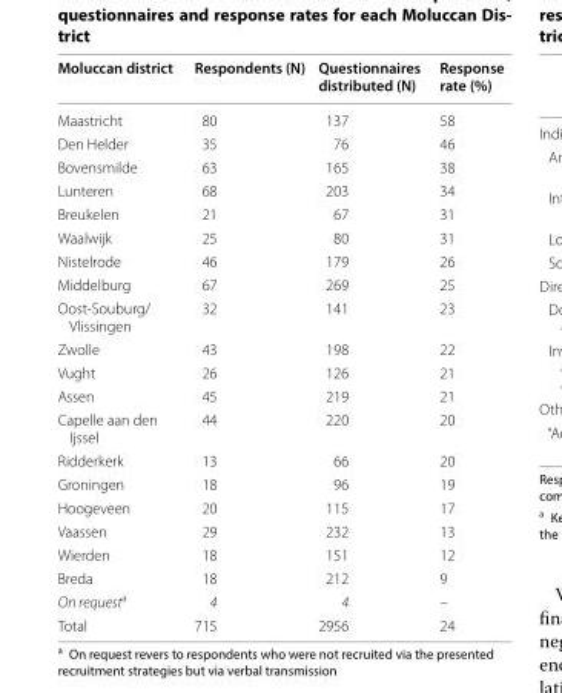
<table><thead><tr><td>Moluccan district</td><td>Respondents (N)</td><td>Questionnaires distributed (N)</td><td>Response rate (%)</td></tr></thead><tbody><tr><td>Maastricht</td><td>80</td><td>137</td><td>58</td></tr><tr><td>Den Helder</td><td>35</td><td>76</td><td>46</td></tr><tr><td>Bovensmilde</td><td>63</td><td>165</td><td>38</td></tr><tr><td>Lunteren</td><td>68</td><td>203</td><td>34</td></tr><tr><td>Breukelen</td><td>21</td><td>67</td><td>31</td></tr><tr><td>Waalwijk</td><td>25</td><td>80</td><td>31</td></tr><tr><td>Nistelrode</td><td>46</td><td>179</td><td>26</td></tr><tr><td>Middelburg</td><td>67</td><td>269</td><td>25</td></tr><tr><td>Oost-Souburg/ Vlissingen</td><td>32</td><td>141</td><td>23</td></tr><tr><td>Zwolle</td><td>43</td><td>198</td><td>22</td></tr><tr><td>Vught</td><td>26</td><td>126</td><td>21</td></tr><tr><td>Assen</td><td>45</td><td>219</td><td>21</td></tr><tr><td>Capelle aan den Ijssel</td><td>44</td><td>220</td><td>20</td></tr><tr><td>Ridderkerk</td><td>13</td><td>66</td><td>20</td></tr><tr><td>Groningen</td><td>18</td><td>96</td><td>19</td></tr><tr><td>Hoogeveen</td><td>20</td><td>115</td><td>17</td></tr><tr><td>Vaassen</td><td>29</td><td>232</td><td>13</td></tr><tr><td>Wierden</td><td>18</td><td>151</td><td>12</td></tr><tr><td>Breda</td><td>18</td><td>212</td><td>9</td></tr><tr><td>On request<sup>a</sup></td><td>4</td><td>4</td><td>–</td></tr><tr><td>Total</td><td>715</td><td>2956</td><td>24</td></tr></tbody></table>